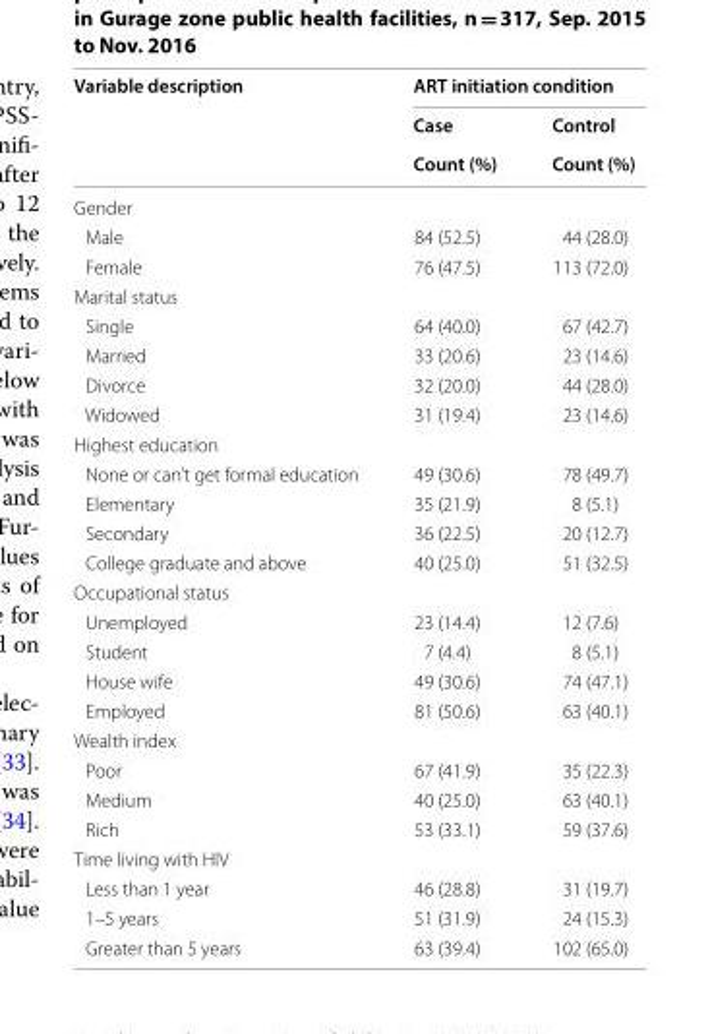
<table><thead><tr><td rowspan="3">Variable description</td><td colspan="2">ART initiation condition</td></tr><tr><td rowspan="2">Case Count (%)</td><td rowspan="2">Control Count (%)</td></tr><tr></tr></thead><tbody><tr><td colspan="3">Gender</td></tr><tr><td>Male</td><td>84 (52.5)</td><td>44 (28.0)</td></tr><tr><td>Female</td><td>76 (47.5)</td><td>113 (72.0)</td></tr><tr><td colspan="3">Marital status</td></tr><tr><td>Single</td><td>64 (40.0)</td><td>67 (42.7)</td></tr><tr><td>Married</td><td>33 (20.6)</td><td>23 (14.6)</td></tr><tr><td>Divorce</td><td>32 (20.0)</td><td>44 (28.0)</td></tr><tr><td>Widowed</td><td>31 (19.4)</td><td>23 (14.6)</td></tr><tr><td colspan="3">Highest education</td></tr><tr><td>None or can’t get formal education</td><td>49 (30.6)</td><td>78 (49.7)</td></tr><tr><td>Elementary</td><td>35 (21.9)</td><td>8 (5.1)</td></tr><tr><td>Secondary</td><td>36 (22.5)</td><td>20 (12.7)</td></tr><tr><td>College graduate and above</td><td>40 (25.0)</td><td>51 (32.5)</td></tr><tr><td colspan="3">Occupational status</td></tr><tr><td>Unemployed</td><td>23 (14.4)</td><td>12 (7.6)</td></tr><tr><td>Student</td><td>7 (4.4)</td><td>8 (5.1)</td></tr><tr><td>House wife</td><td>49 (30.6)</td><td>74 (47.1)</td></tr><tr><td>Employed</td><td>81 (50.6)</td><td>63 (40.1)</td></tr><tr><td colspan="3">Wealth index</td></tr><tr><td>Poor</td><td>67 (41.9)</td><td>35 (22.3)</td></tr><tr><td>Medium</td><td>40 (25.0)</td><td>63 (40.1)</td></tr><tr><td>Rich</td><td>53 (33.1)</td><td>59 (37.6)</td></tr><tr><td colspan="3">Time living with HIV</td></tr><tr><td>Less than 1 year</td><td>46 (28.8)</td><td>31 (19.7)</td></tr><tr><td>1–5 years</td><td>51 (31.9)</td><td>24 (15.3)</td></tr><tr><td>Greater than 5 years</td><td>63 (39.4)</td><td>102 (65.0)</td></tr></tbody></table>